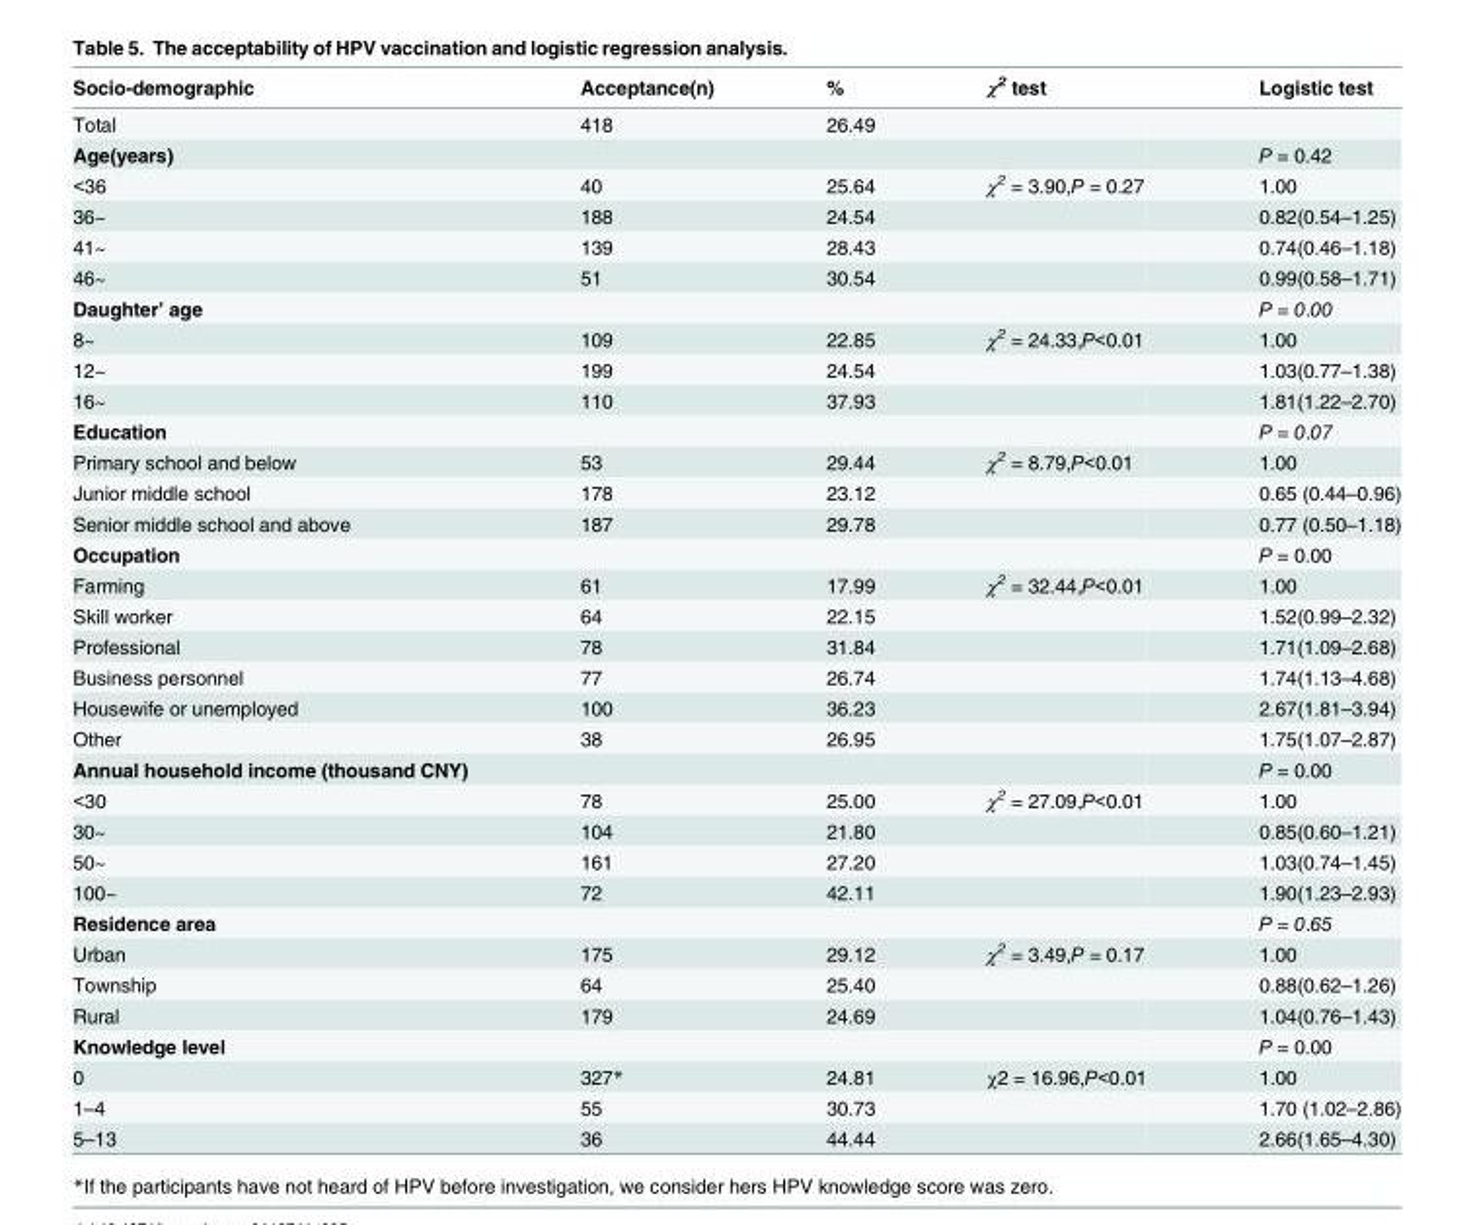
<table><thead><tr><td>Socio-demographic</td><td>Acceptance(n)</td><td>%</td><td>χ<sup>2</sup> test</td><td>Logistic test</td></tr></thead><tbody><tr><td>Total</td><td>418</td><td>26.49</td><td></td><td></td></tr><tr><td>Age(years)</td><td></td><td></td><td></td><td>P = 0.42</td></tr><tr><td>&lt;36</td><td>40</td><td>25.64</td><td>χ<sup>2</sup> = 3.90,P = 0.27</td><td>1.00</td></tr><tr><td>36~</td><td>188</td><td>24.54</td><td></td><td>0.82(0.54–1.25)</td></tr><tr><td>41~</td><td>139</td><td>28.43</td><td></td><td>0.74(0.46–1.18)</td></tr><tr><td>46~</td><td>51</td><td>30.54</td><td></td><td>0.99(0.58–1.71)</td></tr><tr><td>Daughter’ age</td><td></td><td></td><td></td><td>P = 0.00</td></tr><tr><td>8~</td><td>109</td><td>22.85</td><td>χ<sup>2</sup> = 24.33,P&lt;0.01</td><td>1.00</td></tr><tr><td>12~</td><td>199</td><td>24.54</td><td></td><td>1.03(0.77–1.38)</td></tr><tr><td>16~</td><td>110</td><td>37.93</td><td></td><td>1.81(1.22–2.70)</td></tr><tr><td>Education</td><td></td><td></td><td></td><td>P = 0.07</td></tr><tr><td>Primary school and below</td><td>53</td><td>29.44</td><td>χ<sup>2</sup> = 8.79,P&lt;0.01</td><td>1.00</td></tr><tr><td>Junior middle school</td><td>178</td><td>23.12</td><td></td><td>0.65 (0.44–0.96)</td></tr><tr><td>Senior middle school and above</td><td>187</td><td>29.78</td><td></td><td>0.77 (0.50–1.18)</td></tr><tr><td>Occupation</td><td></td><td></td><td></td><td>P = 0.00</td></tr><tr><td>Farming</td><td>61</td><td>17.99</td><td>χ<sup>2</sup> = 32.44,P&lt;0.01</td><td>1.00</td></tr><tr><td>Skill worker</td><td>64</td><td>22.15</td><td></td><td>1.52(0.99–2.32)</td></tr><tr><td>Professional</td><td>78</td><td>31.84</td><td></td><td>1.71(1.09–2.68)</td></tr><tr><td>Business personnel</td><td>77</td><td>26.74</td><td></td><td>1.74(1.13–4.68)</td></tr><tr><td>Housewife or unemployed</td><td>100</td><td>36.23</td><td></td><td>2.67(1.81–3.94)</td></tr><tr><td>Other</td><td>38</td><td>26.95</td><td></td><td>1.75(1.07–2.87)</td></tr><tr><td>Annual household income (thousand CNY)</td><td></td><td></td><td></td><td>P = 0.00</td></tr><tr><td>&lt;30</td><td>78</td><td>25.00</td><td>χ<sup>2</sup> = 27.09,P&lt;0.01</td><td>1.00</td></tr><tr><td>30~</td><td>104</td><td>21.80</td><td></td><td>0.85(0.60–1.21)</td></tr><tr><td>50~</td><td>161</td><td>27.20</td><td></td><td>1.03(0.74–1.45)</td></tr><tr><td>100~</td><td>72</td><td>42.11</td><td></td><td>1.90(1.23–2.93)</td></tr><tr><td>Residence area</td><td></td><td></td><td></td><td>P = 0.65</td></tr><tr><td>Urban</td><td>175</td><td>29.12</td><td>χ<sup>2</sup> = 3.49,P = 0.17</td><td>1.00</td></tr><tr><td>Township</td><td>64</td><td>25.40</td><td></td><td>0.88(0.62–1.26)</td></tr><tr><td>Rural</td><td>179</td><td>24.69</td><td></td><td>1.04(0.76–1.43)</td></tr><tr><td>Knowledge level</td><td></td><td></td><td></td><td>P = 0.00</td></tr><tr><td>0</td><td>327*</td><td>24.81</td><td>χ2 = 16.96,P&lt;0.01</td><td>1.00</td></tr><tr><td>1–4</td><td>55</td><td>30.73</td><td></td><td>1.70 (1.02–2.86)</td></tr><tr><td>5–13</td><td>36</td><td>44.44</td><td></td><td>2.66(1.65–4.30)</td></tr></tbody></table>